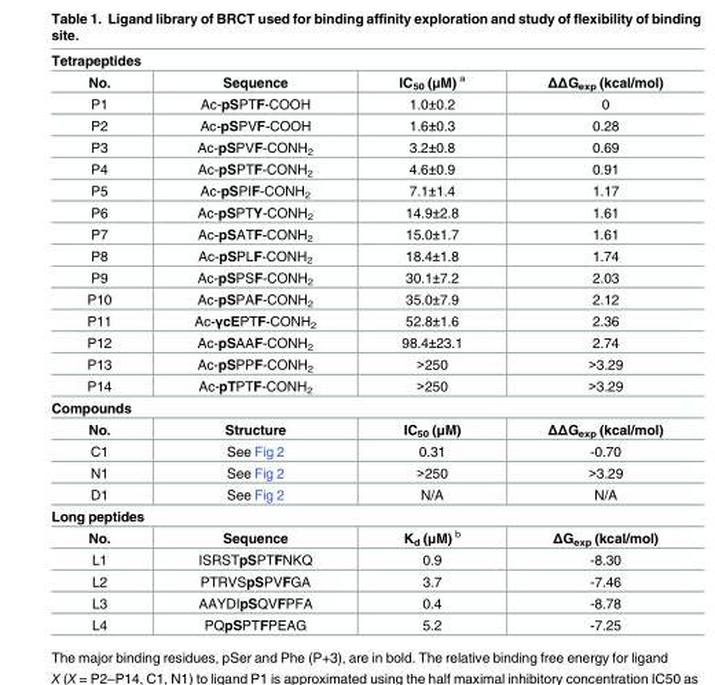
<table><tbody><tr><td colspan="4">Tetrapeptides</td></tr><tr><td>No.</td><td>Sequence</td><td>IC<sub>50</sub> (μM) <sup>a</sup></td><td>ΔΔG<sub>exp</sub> (kcal/mol)</td></tr><tr><td>P1</td><td>Ac-pSPTF-COOH</td><td>1.0±0.2</td><td>0</td></tr><tr><td>P2</td><td>Ac-pSPVF-COOH</td><td>1.6±0.3</td><td>0.28</td></tr><tr><td>P3</td><td>Ac-pSPVF-CONH<sub>2</sub></td><td>3.2±0.8</td><td>0.69</td></tr><tr><td>P4</td><td>Ac-pSPTF-CONH<sub>2</sub></td><td>4.6±0.9</td><td>0.91</td></tr><tr><td>P5</td><td>Ac-pSPIF-CONH<sub>2</sub></td><td>7.1±1.4</td><td>1.17</td></tr><tr><td>P6</td><td>Ac-pSPTY-CONH<sub>2</sub></td><td>14.9±2.8</td><td>1.61</td></tr><tr><td>P7</td><td>Ac-pSATF-CONH<sub>2</sub></td><td>15.0±1.7</td><td>1.61</td></tr><tr><td>P8</td><td>Ac-pSPLF-CONH<sub>2</sub></td><td>18.4±1.8</td><td>1.74</td></tr><tr><td>P9</td><td>Ac-pSPSF-CONH<sub>2</sub></td><td>30.1±7.2</td><td>2.03</td></tr><tr><td>P10</td><td>Ac-pSPAF-CONH<sub>2</sub></td><td>35.0±7.9</td><td>2.12</td></tr><tr><td>P11</td><td>Ac-γcEPTF-CONH<sub>2</sub></td><td>52.8±1.6</td><td>2.36</td></tr><tr><td>P12</td><td>Ac-pSAAF-CONH<sub>2</sub></td><td>98.4±23.1</td><td>2.74</td></tr><tr><td>P13</td><td>Ac-pSPPF-CONH<sub>2</sub></td><td>&gt;250</td><td>&gt;3.29</td></tr><tr><td>P14</td><td>Ac-pTPTF-CONH<sub>2</sub></td><td>&gt;250</td><td>&gt;3.29</td></tr><tr><td colspan="4">Compounds</td></tr><tr><td>No.</td><td>Structure</td><td>IC<sub>50</sub> (μM)</td><td>ΔΔG<sub>exp</sub> (kcal/mol)</td></tr><tr><td>C1</td><td>See Fig 2</td><td>0.31</td><td>-0.70</td></tr><tr><td>N1</td><td>See Fig 2</td><td>&gt;250</td><td>&gt;3.29</td></tr><tr><td>D1</td><td>See Fig 2</td><td>N/A</td><td>N/A</td></tr><tr><td colspan="4">Long peptides</td></tr><tr><td>No.</td><td>Sequence</td><td>K<sub>d</sub> (μM) <sup>b</sup></td><td>ΔG<sub>exp</sub> (kcal/mol)</td></tr><tr><td>L1</td><td>ISRSTpSPTFNKQ</td><td>0.9</td><td>-8.30</td></tr><tr><td>L2</td><td>PTRVSpSPVFGA</td><td>3.7</td><td>-7.46</td></tr><tr><td>L3</td><td>AAYDIpSQVFPFA</td><td>0.4</td><td>-8.78</td></tr><tr><td>L4</td><td>PQpSPTFPEAG</td><td>5.2</td><td>-7.25</td></tr></tbody></table>